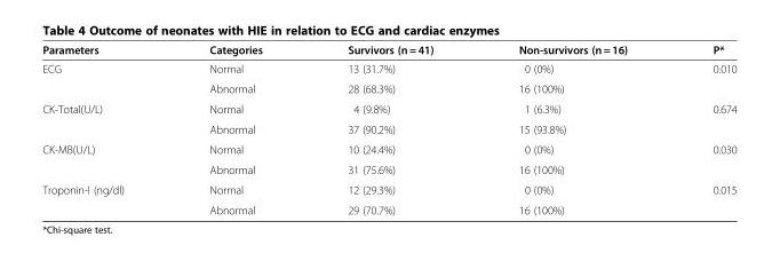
<table><thead><tr><td>Parameters</td><td>Categories</td><td>Survivors (n = 41)</td><td>Non-survivors (n = 16)</td><td>P*</td></tr></thead><tbody><tr><td rowspan="2">ECG</td><td>Normal</td><td>13 (31.7%)</td><td>0 (0%)</td><td rowspan="2">0.010</td></tr><tr><td>Abnormal</td><td>28 (68.3%)</td><td>16 (100%)</td></tr><tr><td rowspan="2">CK-Total(U/L)</td><td>Normal</td><td>4 (9.8%)</td><td>1 (6.3%)</td><td rowspan="2">0.674</td></tr><tr><td>Abnormal</td><td>37 (90.2%)</td><td>15 (93.8%)</td></tr><tr><td rowspan="2">CK-MB(U/L)</td><td>Normal</td><td>10 (24.4%)</td><td>0 (0%)</td><td rowspan="2">0.030</td></tr><tr><td>Abnormal</td><td>31 (75.6%)</td><td>16 (100%)</td></tr><tr><td rowspan="2">Troponin-I (ng/dl)</td><td>Normal</td><td>12 (29.3%)</td><td>0 (0%)</td><td>0.015</td></tr><tr><td>Abnormal</td><td>29 (70.7%)</td><td>16 (100%)</td><td></td></tr></tbody></table>